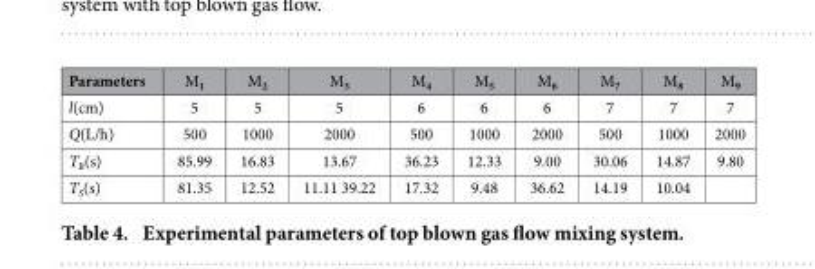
<table><thead><tr><td>Parameters</td><td>M<sub>1</sub></td><td>M<sub>2</sub></td><td>M<sub>3</sub></td><td>M<sub>4</sub></td><td>M<sub>5</sub></td><td>M<sub>6</sub></td><td>M<sub>7</sub></td><td>M<sub>8</sub></td><td>M<sub>9</sub></td></tr></thead><tbody><tr><td>l(cm)</td><td>5</td><td>5</td><td>5</td><td>6</td><td>6</td><td>6</td><td>7</td><td>7</td><td>7</td></tr><tr><td>Q(L/h)</td><td>500</td><td>1000</td><td>2000</td><td>500</td><td>1000</td><td>2000</td><td>500</td><td>1000</td><td>2000</td></tr><tr><td>T<sub>B</sub>(s)</td><td>85.99</td><td>16.83</td><td>13.67</td><td>36.23</td><td>12.33</td><td>9.00</td><td>30.06</td><td>14.87</td><td>9.80</td></tr><tr><td>T<sub>S</sub>(s)</td><td>81.35</td><td>12.52</td><td>11.11 39.22</td><td>17.32</td><td>9.48</td><td>36.62</td><td>14.19</td><td>10.04</td><td></td></tr></tbody></table>